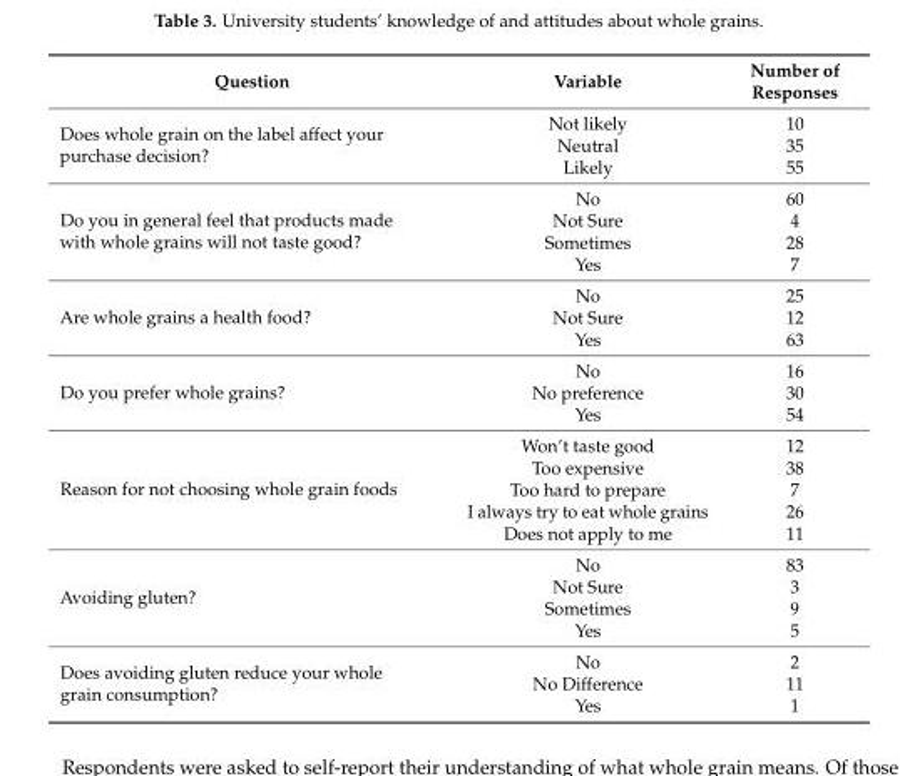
<table><thead><tr><td>Question</td><td>Variable</td><td>Number of Responses</td></tr></thead><tbody><tr><td rowspan="3">Does whole grain on the label affect your purchase decision?</td><td>Not likely</td><td>10</td></tr><tr><td>Neutral</td><td>35</td></tr><tr><td>Likely</td><td>55</td></tr><tr><td rowspan="4">Do you in general feel that products made with whole grains will not taste good?</td><td>No</td><td>60</td></tr><tr><td>Not Sure</td><td>4</td></tr><tr><td>Sometimes</td><td>28</td></tr><tr><td>Yes</td><td>7</td></tr><tr><td rowspan="3">Are whole grains a health food?</td><td>No</td><td>25</td></tr><tr><td>Not Sure</td><td>12</td></tr><tr><td>Yes</td><td>63</td></tr><tr><td rowspan="3">Do you prefer whole grains?</td><td>No</td><td>16</td></tr><tr><td>No preference</td><td>30</td></tr><tr><td>Yes</td><td>54</td></tr><tr><td rowspan="5">Reason for not choosing whole grain foods</td><td>Won’t taste good</td><td>12</td></tr><tr><td>Too expensive</td><td>38</td></tr><tr><td>Too hard to prepare</td><td>7</td></tr><tr><td>I always try to eat whole grains</td><td>26</td></tr><tr><td>Does not apply to me</td><td>11</td></tr><tr><td rowspan="4">Avoiding gluten?</td><td>No</td><td>83</td></tr><tr><td>Not Sure</td><td>3</td></tr><tr><td>Sometimes</td><td>9</td></tr><tr><td>Yes</td><td>5</td></tr><tr><td rowspan="3">Does avoiding gluten reduce your whole grain consumption?</td><td>No</td><td>2</td></tr><tr><td>No Difference</td><td>11</td></tr><tr><td>Yes</td><td>1</td></tr></tbody></table>